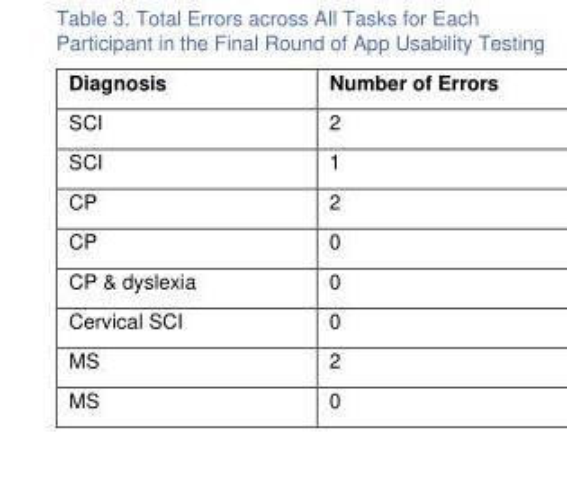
<table><thead><tr><td>Diagnosis</td><td>Number of Errors</td></tr></thead><tbody><tr><td>SCI</td><td>2</td></tr><tr><td>SCI</td><td>1</td></tr><tr><td>CP</td><td>2</td></tr><tr><td>CP</td><td>0</td></tr><tr><td>CP &amp; dyslexia</td><td>0</td></tr><tr><td>Cervical SCI</td><td>0</td></tr><tr><td>MS</td><td>2</td></tr><tr><td>MS</td><td>0</td></tr></tbody></table>